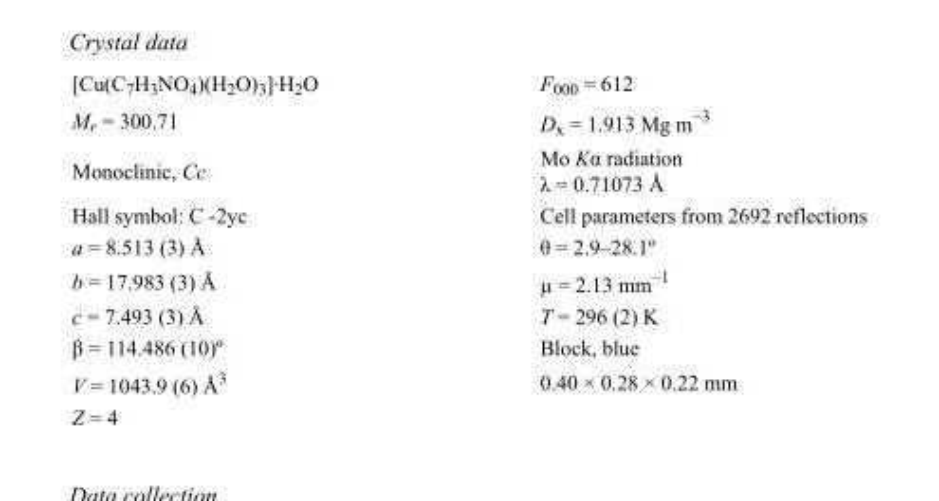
<table><tbody><tr><td>[Cu(C<sub>7</sub>H<sub>3</sub>NO<sub>4</sub>)(H<sub>2</sub>O)<sub>3</sub>]·H<sub>2</sub>O</td><td>F000 = 612</td></tr><tr><td>M<sub>r</sub> = 300.71</td><td>D<sub>x</sub> = 1.913 Mg m<sup>−3</sup></td></tr><tr><td>Monoclinic, Cc</td><td>Mo Kα radiation λ = 0.71073 Å</td></tr><tr><td>Hall symbol: C -2yc</td><td>Cell parameters from 2692 reflections</td></tr><tr><td>a = 8.513 (3) Å</td><td>θ = 2.9–28.1º</td></tr><tr><td>b = 17.983 (3) Å</td><td>µ = 2.13 mm<sup>−1</sup></td></tr><tr><td>c = 7.493 (3) Å</td><td>T = 296 (2) K</td></tr><tr><td>β = 114.486 (10)º</td><td>Block, blue</td></tr><tr><td>V = 1043.9 (6) Å<sup>3</sup></td><td>0.40 × 0.28 × 0.22 mm</td></tr><tr><td>Z = 4</td><td></td></tr></tbody></table>